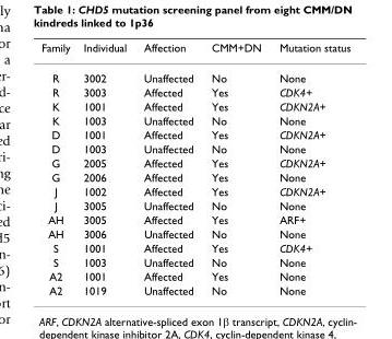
<table><thead><tr><td>Family</td><td>Individual</td><td>Affection</td><td>CMM+DN</td><td>Mutation status</td></tr></thead><tbody><tr><td>R</td><td>3002</td><td>Unaffected</td><td>No</td><td>None</td></tr><tr><td>R</td><td>3003</td><td>Affected</td><td>Yes</td><td>CDK4+</td></tr><tr><td>K</td><td>1001</td><td>Affected</td><td>Yes</td><td>CDKN2A+</td></tr><tr><td>K</td><td>1003</td><td>Unaffected</td><td>No</td><td>None</td></tr><tr><td>D</td><td>1001</td><td>Affected</td><td>Yes</td><td>CDKN2A+</td></tr><tr><td>D</td><td>1003</td><td>Unaffected</td><td>No</td><td>None</td></tr><tr><td>G</td><td>2005</td><td>Affected</td><td>Yes</td><td>CDKN2A+</td></tr><tr><td>G</td><td>2006</td><td>Affected</td><td>Yes</td><td>None</td></tr><tr><td>J</td><td>1002</td><td>Affected</td><td>Yes</td><td>CDKN2A+</td></tr><tr><td>J</td><td>3005</td><td>Unaffected</td><td>No</td><td>None</td></tr><tr><td>AH</td><td>3005</td><td>Affected</td><td>Yes</td><td>ARF+</td></tr><tr><td>AH</td><td>3006</td><td>Unaffected</td><td>No</td><td>None</td></tr><tr><td>S</td><td>1001</td><td>Affected</td><td>Yes</td><td>CDK4+</td></tr><tr><td>S</td><td>1003</td><td>Unaffected</td><td>No</td><td>None</td></tr><tr><td>A2</td><td>1001</td><td>Affected</td><td>Yes</td><td>None</td></tr><tr><td>A2</td><td>1019</td><td>Unaffected</td><td>No</td><td>None</td></tr></tbody></table>